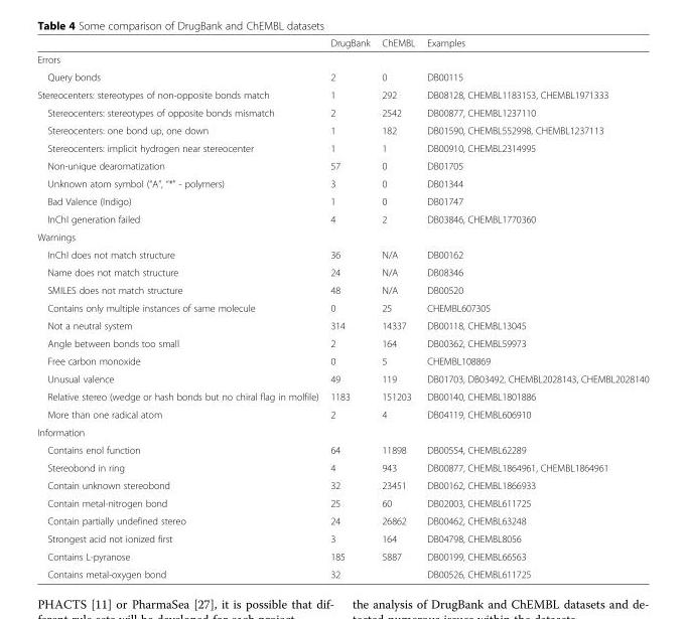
<table><thead><tr><td></td><td>DrugBank</td><td>ChEMBL</td><td>Examples</td></tr></thead><tbody><tr><td colspan="4">Errors</td></tr><tr><td>Query bonds</td><td>2</td><td>0</td><td>DB00115</td></tr><tr><td>Stereocenters: stereotypes of non-opposite bonds match</td><td>1</td><td>292</td><td>DB08128, CHEMBL1183153, CHEMBL1971333</td></tr><tr><td>Stereocenters: stereotypes of opposite bonds mismatch</td><td>2</td><td>2542</td><td>DB00877, CHEMBL1237110</td></tr><tr><td>Stereocenters: one bond up, one down</td><td>1</td><td>182</td><td>DB01590, CHEMBL552998, CHEMBL1237113</td></tr><tr><td>Stereocenters: implicit hydrogen near stereocenter</td><td>1</td><td>1</td><td>DB00910, CHEMBL2314995</td></tr><tr><td>Non-unique dearomatization</td><td>57</td><td>0</td><td>DB01705</td></tr><tr><td>Unknown atom symbol (“A”, “*” - polymers)</td><td>3</td><td>0</td><td>DB01344</td></tr><tr><td>Bad Valence (Indigo)</td><td>1</td><td>0</td><td>DB01747</td></tr><tr><td>InChI generation failed</td><td>4</td><td>2</td><td>DB03846, CHEMBL1770360</td></tr><tr><td colspan="4">Warnings</td></tr><tr><td>InChI does not match structure</td><td>36</td><td>N/A</td><td>DB00162</td></tr><tr><td>Name does not match structure</td><td>24</td><td>N/A</td><td>DB08346</td></tr><tr><td>SMILES does not match structure</td><td>48</td><td>N/A</td><td>DB00520</td></tr><tr><td>Contains only multiple instances of same molecule</td><td>0</td><td>25</td><td>CHEMBL607305</td></tr><tr><td>Not a neutral system</td><td>314</td><td>14337</td><td>DB00118, CHEMBL13045</td></tr><tr><td>Angle between bonds too small</td><td>2</td><td>164</td><td>DB00362, CHEMBL59973</td></tr><tr><td>Free carbon monoxide</td><td>0</td><td>5</td><td>CHEMBL108869</td></tr><tr><td>Unusual valence</td><td>49</td><td>119</td><td>DB01703, DB03492, CHEMBL2028143, CHEMBL2028140</td></tr><tr><td>Relative stereo (wedge or hash bonds but no chiral flag in molfile)</td><td>1183</td><td>151203</td><td>DB00140, CHEMBL1801886</td></tr><tr><td>More than one radical atom</td><td>2</td><td>4</td><td>DB04119, CHEMBL606910</td></tr><tr><td colspan="4">Information</td></tr><tr><td>Contains enol function</td><td>64</td><td>11898</td><td>DB00554, CHEMBL62289</td></tr><tr><td>Stereobond in ring</td><td>4</td><td>943</td><td>DB00877, CHEMBL1864961, CHEMBL1864961</td></tr><tr><td>Contain unknown stereobond</td><td>32</td><td>23451</td><td>DB00162, CHEMBL1866933</td></tr><tr><td>Contain metal-nitrogen bond</td><td>25</td><td>60</td><td>DB02003, CHEMBL611725</td></tr><tr><td>Contain partially undefined stereo</td><td>24</td><td>26862</td><td>DB00462, CHEMBL63248</td></tr><tr><td>Strongest acid not ionized first</td><td>3</td><td>164</td><td>DB04798, CHEMBL8056</td></tr><tr><td>Contains L-pyranose</td><td>185</td><td>5887</td><td>DB00199, CHEMBL66563</td></tr><tr><td>Contains metal-oxygen bond</td><td>32</td><td></td><td>DB00526, CHEMBL611725</td></tr></tbody></table>